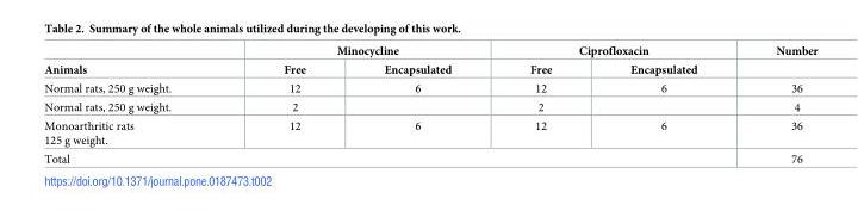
<table><thead><tr><td rowspan="2">Animals</td><td colspan="2">Minocycline</td><td colspan="2">Ciprofloxacin</td><td rowspan="2">Number</td></tr><tr><td>Free</td><td>Encapsulated</td><td>Free</td><td>Encapsulated</td></tr></thead><tbody><tr><td>Normal rats, 250 g weight.</td><td>12</td><td>6</td><td>12</td><td>6</td><td>36</td></tr><tr><td>Normal rats, 250 g weight.</td><td>2</td><td></td><td>2</td><td></td><td>4</td></tr><tr><td>Monoarthritic rats 125 g weight.</td><td>12</td><td>6</td><td>12</td><td>6</td><td>36</td></tr><tr><td colspan="5">Total</td><td>76</td></tr></tbody></table>